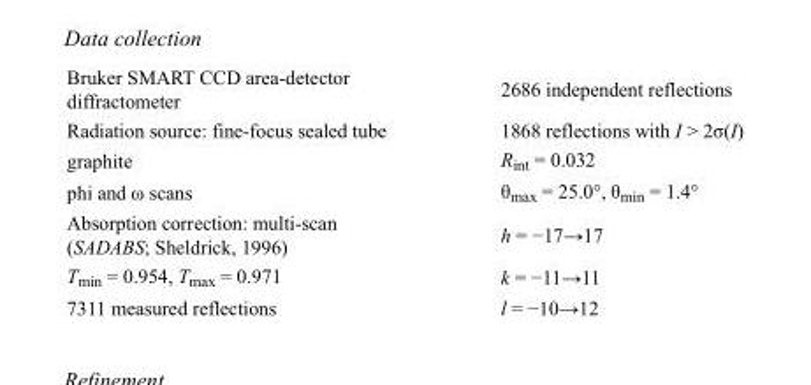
<table><tbody><tr><td>Bruker SMART CCD area-detector diffractometer</td><td>2686 independent reflections</td></tr><tr><td>Radiation source: fine-focus sealed tube</td><td>1868 reflections with I &gt; 2σ(I)</td></tr><tr><td>graphite</td><td>R<sub>int</sub> = 0.032</td></tr><tr><td>phi and ω scans</td><td>θ<sub>max</sub> = 25.0°, θ<sub>min</sub> = 1.4°</td></tr><tr><td>Absorption correction: multi-scan (SADABS; Sheldrick, 1996)</td><td>h = −17→17</td></tr><tr><td>T<sub>min</sub> = 0.954, T<sub>max</sub> = 0.971</td><td>k = −11→11</td></tr><tr><td>7311 measured reflections</td><td>l = −10→12</td></tr></tbody></table>